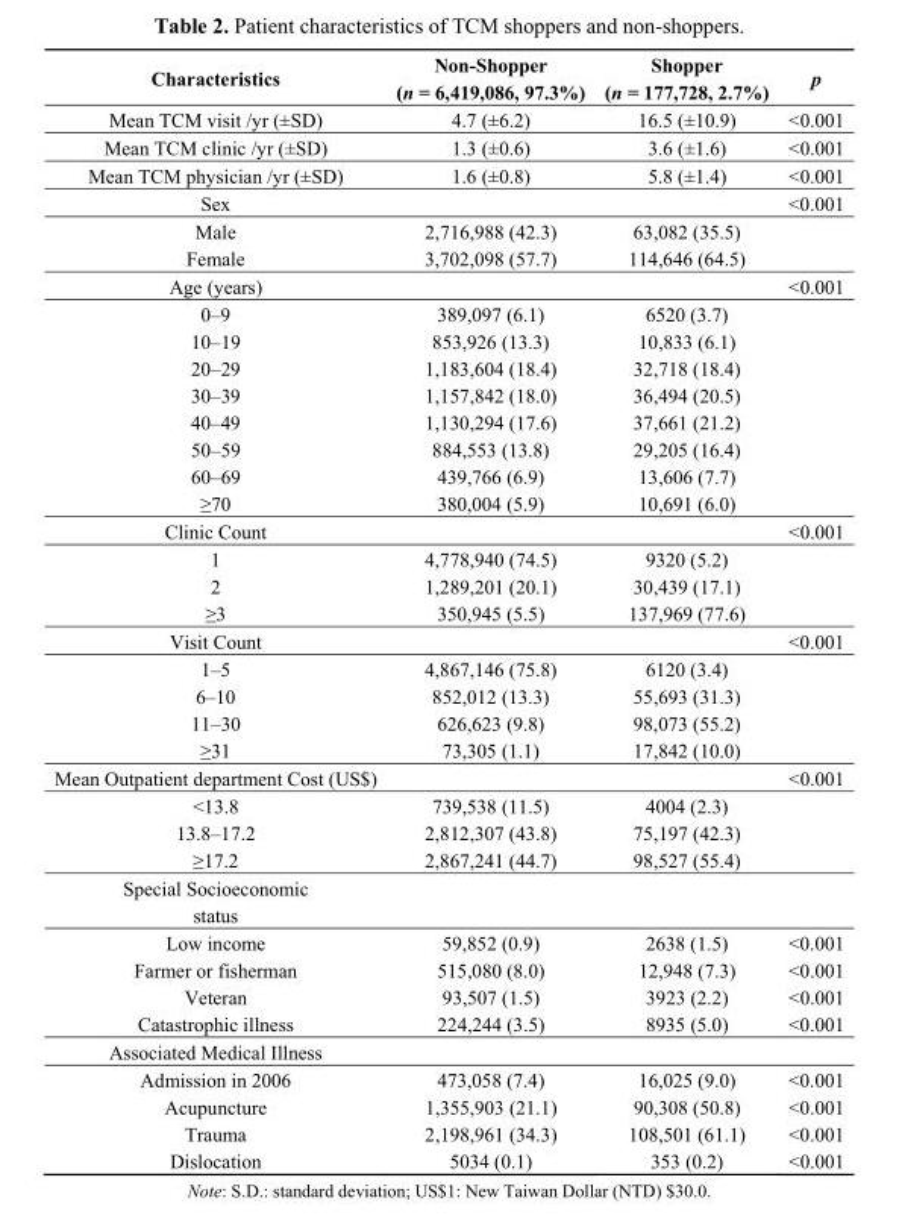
<table><thead><tr><td>Characteristics</td><td>Non-Shopper (n = 6,419,086, 97.3%)</td><td>Shopper (n = 177,728, 2.7%)</td><td>p</td></tr></thead><tbody><tr><td>Mean TCM visit /yr (±SD)</td><td>4.7 (±6.2)</td><td>16.5 (±10.9)</td><td>&lt;0.001</td></tr><tr><td>Mean TCM clinic /yr (±SD)</td><td>1.3 (±0.6)</td><td>3.6 (±1.6)</td><td>&lt;0.001</td></tr><tr><td>Mean TCM physician /yr (±SD)</td><td>1.6 (±0.8)</td><td>5.8 (±1.4)</td><td>&lt;0.001</td></tr><tr><td>Sex</td><td></td><td></td><td>&lt;0.001</td></tr><tr><td>Male</td><td>2,716,988 (42.3)</td><td>63,082 (35.5)</td><td></td></tr><tr><td>Female</td><td>3,702,098 (57.7)</td><td>114,646 (64.5)</td><td></td></tr><tr><td>Age (years)</td><td></td><td></td><td>&lt;0.001</td></tr><tr><td>0–9</td><td>389,097 (6.1)</td><td>6520 (3.7)</td><td></td></tr><tr><td>10–19</td><td>853,926 (13.3)</td><td>10,833 (6.1)</td><td></td></tr><tr><td>20–29</td><td>1,183,604 (18.4)</td><td>32,718 (18.4)</td><td></td></tr><tr><td>30–39</td><td>1,157,842 (18.0)</td><td>36,494 (20.5)</td><td></td></tr><tr><td>40–49</td><td>1,130,294 (17.6)</td><td>37,661 (21.2)</td><td></td></tr><tr><td>50–59</td><td>884,553 (13.8)</td><td>29,205 (16.4)</td><td></td></tr><tr><td>60–69</td><td>439,766 (6.9)</td><td>13,606 (7.7)</td><td></td></tr><tr><td>≥70</td><td>380,004 (5.9)</td><td>10,691 (6.0)</td><td></td></tr><tr><td>Clinic Count</td><td></td><td></td><td>&lt;0.001</td></tr><tr><td>1</td><td>4,778,940 (74.5)</td><td>9320 (5.2)</td><td></td></tr><tr><td>2</td><td>1,289,201 (20.1)</td><td>30,439 (17.1)</td><td></td></tr><tr><td>≥3</td><td>350,945 (5.5)</td><td>137,969 (77.6)</td><td></td></tr><tr><td>Visit Count</td><td></td><td></td><td>&lt;0.001</td></tr><tr><td>1–5</td><td>4,867,146 (75.8)</td><td>6120 (3.4)</td><td></td></tr><tr><td>6–10</td><td>852,012 (13.3)</td><td>55,693 (31.3)</td><td></td></tr><tr><td>11–30</td><td>626,623 (9.8)</td><td>98,073 (55.2)</td><td></td></tr><tr><td>≥31</td><td>73,305 (1.1)</td><td>17,842 (10.0)</td><td></td></tr><tr><td>Mean Outpatient department Cost (US$)</td><td></td><td></td><td>&lt;0.001</td></tr><tr><td>&lt;13.8</td><td>739,538 (11.5)</td><td>4004 (2.3)</td><td></td></tr><tr><td>13.8–17.2</td><td>2,812,307 (43.8)</td><td>75,197 (42.3)</td><td></td></tr><tr><td>≥17.2</td><td>2,867,241 (44.7)</td><td>98,527 (55.4)</td><td></td></tr><tr><td colspan="4">Special Socioeconomic status</td></tr><tr><td>Low income</td><td>59,852 (0.9)</td><td>2638 (1.5)</td><td>&lt;0.001</td></tr><tr><td>Farmer or fisherman</td><td>515,080 (8.0)</td><td>12,948 (7.3)</td><td>&lt;0.001</td></tr><tr><td>Veteran</td><td>93,507 (1.5)</td><td>3923 (2.2)</td><td>&lt;0.001</td></tr><tr><td>Catastrophic illness</td><td>224,244 (3.5)</td><td>8935 (5.0)</td><td>&lt;0.001</td></tr><tr><td colspan="4">Associated Medical Illness</td></tr><tr><td>Admission in 2006</td><td>473,058 (7.4)</td><td>16,025 (9.0)</td><td>&lt;0.001</td></tr><tr><td>Acupuncture</td><td>1,355,903 (21.1)</td><td>90,308 (50.8)</td><td>&lt;0.001</td></tr><tr><td>Trauma</td><td>2,198,961 (34.3)</td><td>108,501 (61.1)</td><td>&lt;0.001</td></tr><tr><td>Dislocation</td><td>5034 (0.1)</td><td>353 (0.2)</td><td>&lt;0.001</td></tr></tbody></table>